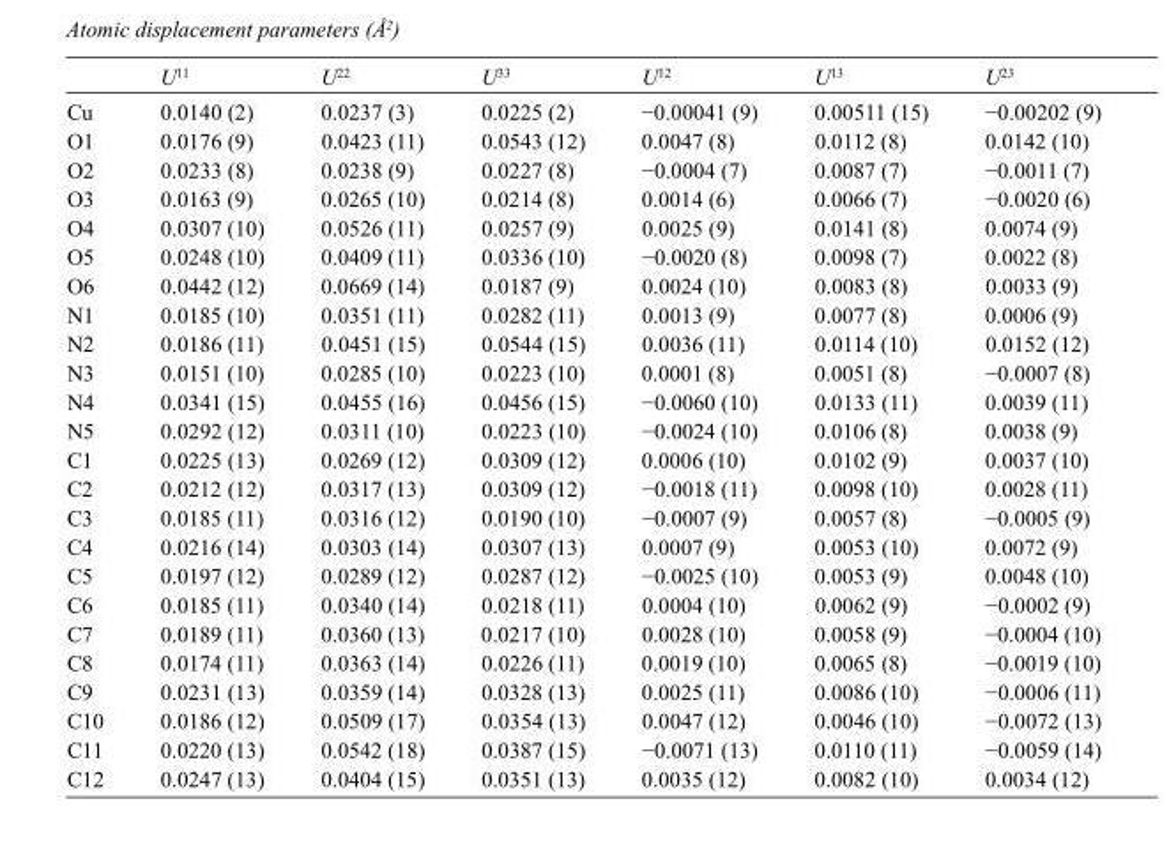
<table><thead><tr><td></td><td>U<sup>11</sup></td><td>U<sup>22</sup></td><td>U<sup>33</sup></td><td>U<sup>12</sup></td><td>U<sup>13</sup></td><td>U<sup>23</sup></td></tr></thead><tbody><tr><td>Cu</td><td>0.0140 (2)</td><td>0.0237 (3)</td><td>0.0225 (2)</td><td>−0.00041 (9)</td><td>0.00511 (15)</td><td>−0.00202 (9)</td></tr><tr><td>O1</td><td>0.0176 (9)</td><td>0.0423 (11)</td><td>0.0543 (12)</td><td>0.0047 (8)</td><td>0.0112 (8)</td><td>0.0142 (10)</td></tr><tr><td>O2</td><td>0.0233 (8)</td><td>0.0238 (9)</td><td>0.0227 (8)</td><td>−0.0004 (7)</td><td>0.0087 (7)</td><td>−0.0011 (7)</td></tr><tr><td>O3</td><td>0.0163 (9)</td><td>0.0265 (10)</td><td>0.0214 (8)</td><td>0.0014 (6)</td><td>0.0066 (7)</td><td>−0.0020 (6)</td></tr><tr><td>O4</td><td>0.0307 (10)</td><td>0.0526 (11)</td><td>0.0257 (9)</td><td>0.0025 (9)</td><td>0.0141 (8)</td><td>0.0074 (9)</td></tr><tr><td>O5</td><td>0.0248 (10)</td><td>0.0409 (11)</td><td>0.0336 (10)</td><td>−0.0020 (8)</td><td>0.0098 (7)</td><td>0.0022 (8)</td></tr><tr><td>O6</td><td>0.0442 (12)</td><td>0.0669 (14)</td><td>0.0187 (9)</td><td>0.0024 (10)</td><td>0.0083 (8)</td><td>0.0033 (9)</td></tr><tr><td>N1</td><td>0.0185 (10)</td><td>0.0351 (11)</td><td>0.0282 (11)</td><td>0.0013 (9)</td><td>0.0077 (8)</td><td>0.0006 (9)</td></tr><tr><td>N2</td><td>0.0186 (11)</td><td>0.0451 (15)</td><td>0.0544 (15)</td><td>0.0036 (11)</td><td>0.0114 (10)</td><td>0.0152 (12)</td></tr><tr><td>N3</td><td>0.0151 (10)</td><td>0.0285 (10)</td><td>0.0223 (10)</td><td>0.0001 (8)</td><td>0.0051 (8)</td><td>−0.0007 (8)</td></tr><tr><td>N4</td><td>0.0341 (15)</td><td>0.0455 (16)</td><td>0.0456 (15)</td><td>−0.0060 (10)</td><td>0.0133 (11)</td><td>0.0039 (11)</td></tr><tr><td>N5</td><td>0.0292 (12)</td><td>0.0311 (10)</td><td>0.0223 (10)</td><td>−0.0024 (10)</td><td>0.0106 (8)</td><td>0.0038 (9)</td></tr><tr><td>C1</td><td>0.0225 (13)</td><td>0.0269 (12)</td><td>0.0309 (12)</td><td>0.0006 (10)</td><td>0.0102 (9)</td><td>0.0037 (10)</td></tr><tr><td>C2</td><td>0.0212 (12)</td><td>0.0317 (13)</td><td>0.0309 (12)</td><td>−0.0018 (11)</td><td>0.0098 (10)</td><td>0.0028 (11)</td></tr><tr><td>C3</td><td>0.0185 (11)</td><td>0.0316 (12)</td><td>0.0190 (10)</td><td>−0.0007 (9)</td><td>0.0057 (8)</td><td>−0.0005 (9)</td></tr><tr><td>C4</td><td>0.0216 (14)</td><td>0.0303 (14)</td><td>0.0307 (13)</td><td>0.0007 (9)</td><td>0.0053 (10)</td><td>0.0072 (9)</td></tr><tr><td>C5</td><td>0.0197 (12)</td><td>0.0289 (12)</td><td>0.0287 (12)</td><td>−0.0025 (10)</td><td>0.0053 (9)</td><td>0.0048 (10)</td></tr><tr><td>C6</td><td>0.0185 (11)</td><td>0.0340 (14)</td><td>0.0218 (11)</td><td>0.0004 (10)</td><td>0.0062 (9)</td><td>−0.0002 (9)</td></tr><tr><td>C7</td><td>0.0189 (11)</td><td>0.0360 (13)</td><td>0.0217 (10)</td><td>0.0028 (10)</td><td>0.0058 (9)</td><td>−0.0004 (10)</td></tr><tr><td>C8</td><td>0.0174 (11)</td><td>0.0363 (14)</td><td>0.0226 (11)</td><td>0.0019 (10)</td><td>0.0065 (8)</td><td>−0.0019 (10)</td></tr><tr><td>C9</td><td>0.0231 (13)</td><td>0.0359 (14)</td><td>0.0328 (13)</td><td>0.0025 (11)</td><td>0.0086 (10)</td><td>−0.0006 (11)</td></tr><tr><td>C10</td><td>0.0186 (12)</td><td>0.0509 (17)</td><td>0.0354 (13)</td><td>0.0047 (12)</td><td>0.0046 (10)</td><td>−0.0072 (13)</td></tr><tr><td>C11</td><td>0.0220 (13)</td><td>0.0542 (18)</td><td>0.0387 (15)</td><td>−0.0071 (13)</td><td>0.0110 (11)</td><td>−0.0059 (14)</td></tr><tr><td>C12</td><td>0.0247 (13)</td><td>0.0404 (15)</td><td>0.0351 (13)</td><td>0.0035 (12)</td><td>0.0082 (10)</td><td>0.0034 (12)</td></tr></tbody></table>